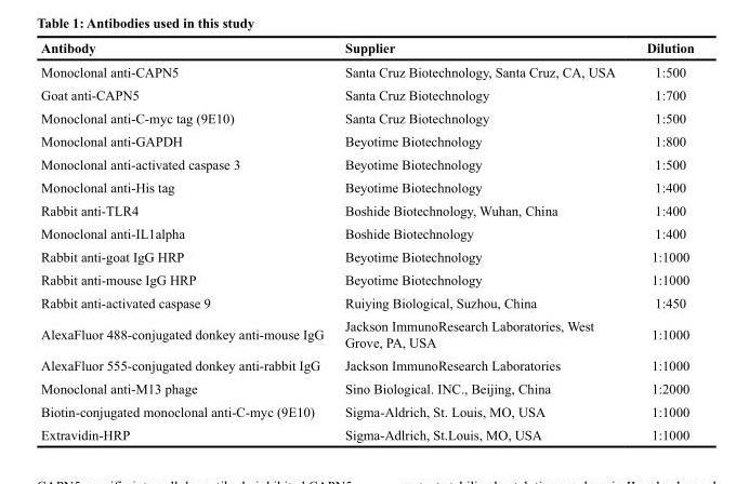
<table><thead><tr><td>Antibody</td><td>Supplier</td><td>Dilution</td></tr></thead><tbody><tr><td>Monoclonal anti-CAPN5</td><td>Santa Cruz Biotechnology, Santa Cruz, CA, USA</td><td>1:500</td></tr><tr><td>Goat anti-CAPN5</td><td>Santa Cruz Biotechnology</td><td>1:700</td></tr><tr><td>Monoclonal anti-C-myc tag (9E10)</td><td>Santa Cruz Biotechnology</td><td>1:500</td></tr><tr><td>Monoclonal anti-GAPDH</td><td>Beyotime Biotechnology</td><td>1:800</td></tr><tr><td>Monoclonal anti-activated caspase 3</td><td>Beyotime Biotechnology</td><td>1:500</td></tr><tr><td>Monoclonal anti-His tag</td><td>Beyotime Biotechnology</td><td>1:400</td></tr><tr><td>Rabbit anti-TLR4</td><td>Boshide Biotechnology, Wuhan, China</td><td>1:400</td></tr><tr><td>Monoclonal anti-IL1alpha</td><td>Boshide Biotechnology</td><td>1:400</td></tr><tr><td>Rabbit anti-goat IgG HRP</td><td>Beyotime Biotechnology</td><td>1:1000</td></tr><tr><td>Rabbit anti-mouse IgG HRP</td><td>Beyotime Biotechnology</td><td>1:1000</td></tr><tr><td>Rabbit anti-activated caspase 9</td><td>Ruiying Biological, Suzhou, China</td><td>1:450</td></tr><tr><td>AlexaFluor 488-conjugated donkey anti-mouse IgG</td><td>Jackson ImmunoResearch Laboratories, West Grove, PA, USA</td><td>1:1000</td></tr><tr><td>AlexaFluor 555-conjugated donkey anti-rabbit IgG</td><td>Jackson ImmunoResearch Laboratories</td><td>1:1000</td></tr><tr><td>Monoclonal anti-M13 phage</td><td>Sino Biological. INC., Beijing, China</td><td>1:2000</td></tr><tr><td>Biotin-conjugated monoclonal anti-C-myc (9E10)</td><td>Sigma-Aldrich, St. Louis, MO, USA</td><td>1:1000</td></tr><tr><td>Extravidin-HRP</td><td>Sigma-Adlrich, St.Louis, MO, USA</td><td>1:1000</td></tr></tbody></table>